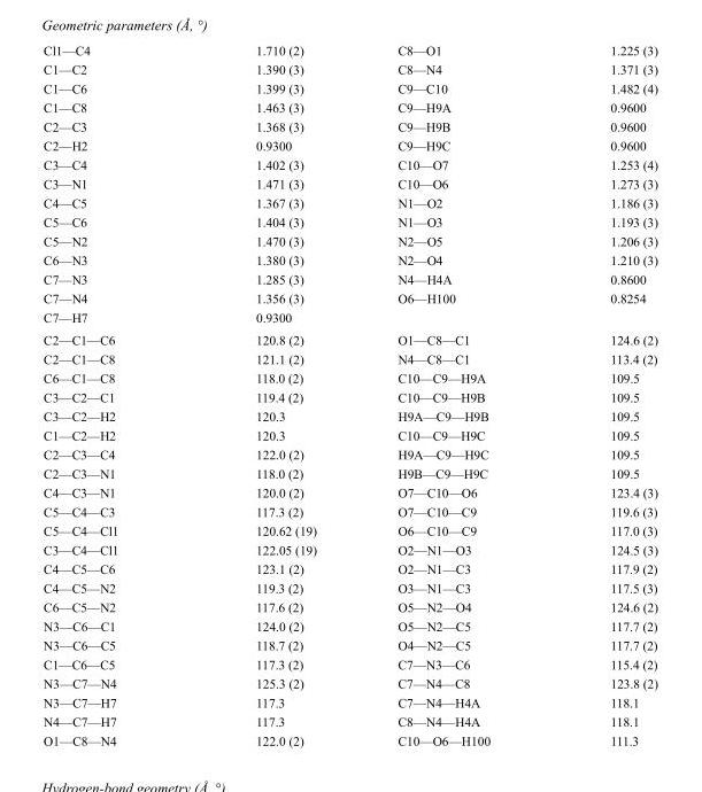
<table><tbody><tr><td>Cl1—C4</td><td>1.710 (2)</td><td>C8—O1</td><td>1.225 (3)</td></tr><tr><td>C1—C2</td><td>1.390 (3)</td><td>C8—N4</td><td>1.371 (3)</td></tr><tr><td>C1—C6</td><td>1.399 (3)</td><td>C9—C10</td><td>1.482 (4)</td></tr><tr><td>C1—C8</td><td>1.463 (3)</td><td>C9—H9A</td><td>0.9600</td></tr><tr><td>C2—C3</td><td>1.368 (3)</td><td>C9—H9B</td><td>0.9600</td></tr><tr><td>C2—H2</td><td>0.9300</td><td>C9—H9C</td><td>0.9600</td></tr><tr><td>C3—C4</td><td>1.402 (3)</td><td>C10—O7</td><td>1.253 (4)</td></tr><tr><td>C3—N1</td><td>1.471 (3)</td><td>C10—O6</td><td>1.273 (3)</td></tr><tr><td>C4—C5</td><td>1.367 (3)</td><td>N1—O2</td><td>1.186 (3)</td></tr><tr><td>C5—C6</td><td>1.404 (3)</td><td>N1—O3</td><td>1.193 (3)</td></tr><tr><td>C5—N2</td><td>1.470 (3)</td><td>N2—O5</td><td>1.206 (3)</td></tr><tr><td>C6—N3</td><td>1.380 (3)</td><td>N2—O4</td><td>1.210 (3)</td></tr><tr><td>C7—N3</td><td>1.285 (3)</td><td>N4—H4A</td><td>0.8600</td></tr><tr><td>C7—N4</td><td>1.356 (3)</td><td>O6—H100</td><td>0.8254</td></tr><tr><td>C7—H7</td><td>0.9300</td><td></td><td></td></tr><tr><td>C2—C1—C6</td><td>120.8 (2)</td><td>O1—C8—C1</td><td>124.6 (2)</td></tr><tr><td>C2—C1—C8</td><td>121.1 (2)</td><td>N4—C8—C1</td><td>113.4 (2)</td></tr><tr><td>C6—C1—C8</td><td>118.0 (2)</td><td>C10—C9—H9A</td><td>109.5</td></tr><tr><td>C3—C2—C1</td><td>119.4 (2)</td><td>C10—C9—H9B</td><td>109.5</td></tr><tr><td>C3—C2—H2</td><td>120.3</td><td>H9A—C9—H9B</td><td>109.5</td></tr><tr><td>C1—C2—H2</td><td>120.3</td><td>C10—C9—H9C</td><td>109.5</td></tr><tr><td>C2—C3—C4</td><td>122.0 (2)</td><td>H9A—C9—H9C</td><td>109.5</td></tr><tr><td>C2—C3—N1</td><td>118.0 (2)</td><td>H9B—C9—H9C</td><td>109.5</td></tr><tr><td>C4—C3—N1</td><td>120.0 (2)</td><td>O7—C10—O6</td><td>123.4 (3)</td></tr><tr><td>C5—C4—C3</td><td>117.3 (2)</td><td>O7—C10—C9</td><td>119.6 (3)</td></tr><tr><td>C5—C4—Cl1</td><td>120.62 (19)</td><td>O6—C10—C9</td><td>117.0 (3)</td></tr><tr><td>C3—C4—Cl1</td><td>122.05 (19)</td><td>O2—N1—O3</td><td>124.5 (3)</td></tr><tr><td>C4—C5—C6</td><td>123.1 (2)</td><td>O2—N1—C3</td><td>117.9 (2)</td></tr><tr><td>C4—C5—N2</td><td>119.3 (2)</td><td>O3—N1—C3</td><td>117.5 (3)</td></tr><tr><td>C6—C5—N2</td><td>117.6 (2)</td><td>O5—N2—O4</td><td>124.6 (2)</td></tr><tr><td>N3—C6—C1</td><td>124.0 (2)</td><td>O5—N2—C5</td><td>117.7 (2)</td></tr><tr><td>N3—C6—C5</td><td>118.7 (2)</td><td>O4—N2—C5</td><td>117.7 (2)</td></tr><tr><td>C1—C6—C5</td><td>117.3 (2)</td><td>C7—N3—C6</td><td>115.4 (2)</td></tr><tr><td>N3—C7—N4</td><td>125.3 (2)</td><td>C7—N4—C8</td><td>123.8 (2)</td></tr><tr><td>N3—C7—H7</td><td>117.3</td><td>C7—N4—H4A</td><td>118.1</td></tr><tr><td>N4—C7—H7</td><td>117.3</td><td>C8—N4—H4A</td><td>118.1</td></tr><tr><td>O1—C8—N4</td><td>122.0 (2)</td><td>C10—O6—H100</td><td>111.3</td></tr></tbody></table>